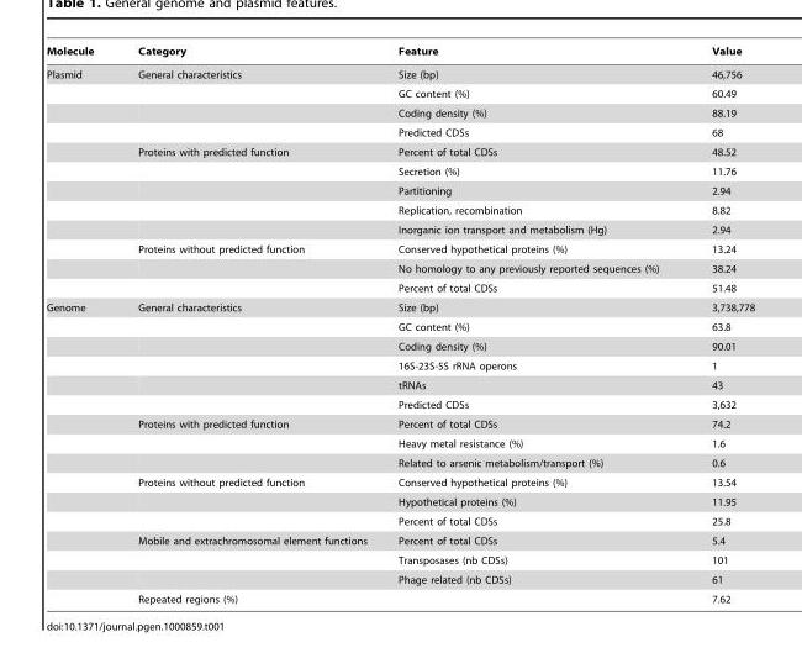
<table><thead><tr><td>Molecule</td><td>Category</td><td>Feature</td><td>Value</td></tr></thead><tbody><tr><td rowspan="12">Plasmid</td><td>General characteristics</td><td>Size (bp)</td><td>46,756</td></tr><tr><td></td><td>GC content (%)</td><td>60.49</td></tr><tr><td></td><td>Coding density (%)</td><td>88.19</td></tr><tr><td></td><td>Predicted CDSs</td><td>68</td></tr><tr><td>Proteins with predicted function</td><td>Percent of total CDSs</td><td>48.52</td></tr><tr><td></td><td>Secretion (%)</td><td>11.76</td></tr><tr><td></td><td>Partitioning</td><td>2.94</td></tr><tr><td></td><td>Replication, recombination</td><td>8.82</td></tr><tr><td></td><td>Inorganic ion transport and metabolism (Hg)</td><td>2.94</td></tr><tr><td>Proteins without predicted function</td><td>Conserved hypothetical proteins (%)</td><td>13.24</td></tr><tr><td></td><td>No homology to any previously reported sequences (%)</td><td>38.24</td></tr><tr><td></td><td>Percent of total CDSs</td><td>51.48</td></tr><tr><td rowspan="16">Genome</td><td>General characteristics</td><td>Size (bp)</td><td>3,738,778</td></tr><tr><td></td><td>GC content (%)</td><td>63.8</td></tr><tr><td></td><td>Coding density (%)</td><td>90.01</td></tr><tr><td></td><td>16S-23S-5S rRNA operons</td><td>1</td></tr><tr><td></td><td>tRNAs</td><td>43</td></tr><tr><td></td><td>Predicted CDSs</td><td>3,632</td></tr><tr><td>Proteins with predicted function</td><td>Percent of total CDSs</td><td>74.2</td></tr><tr><td></td><td>Heavy metal resistance (%)</td><td>1.6</td></tr><tr><td></td><td>Related to arsenic metabolism/transport (%)</td><td>0.6</td></tr><tr><td>Proteins without predicted function</td><td>Conserved hypothetical proteins (%)</td><td>13.54</td></tr><tr><td></td><td>Hypothetical proteins (%)</td><td>11.95</td></tr><tr><td></td><td>Percent of total CDSs</td><td>25.8</td></tr><tr><td>Mobile and extrachromosomal element functions</td><td>Percent of total CDSs</td><td>5.4</td></tr><tr><td></td><td>Transposases (nb CDSs)</td><td>101</td></tr><tr><td></td><td>Phage related (nb CDSs)</td><td>61</td></tr><tr><td>Repeated regions (%)</td><td></td><td>7.62</td></tr></tbody></table>